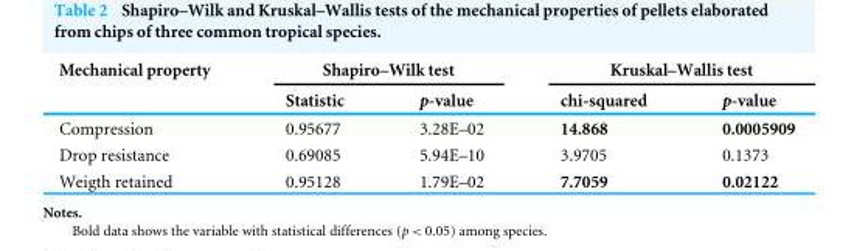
<table><thead><tr><td rowspan="2">Mechanical property</td><td colspan="2">Shapiro–Wilk test</td><td colspan="2">Kruskal–Wallis test</td></tr><tr><td>Statistic</td><td>p-value</td><td>chi-squared</td><td>p-value</td></tr></thead><tbody><tr><td>Compression</td><td>0.95677</td><td>3.28E–02</td><td>14.868</td><td>0.0005909</td></tr><tr><td>Drop resistance</td><td>0.69085</td><td>5.94E–10</td><td>3.9705</td><td>0.1373</td></tr><tr><td>Weigth retained</td><td>0.95128</td><td>1.79E–02</td><td>7.7059</td><td>0.02122</td></tr></tbody></table>